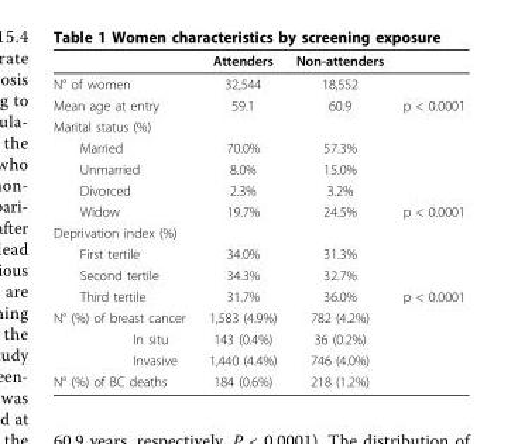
<table><thead><tr><td></td><td>Attenders</td><td>Non-attenders</td><td></td></tr></thead><tbody><tr><td>N° of women</td><td>32,544</td><td>18,552</td><td></td></tr><tr><td>Mean age at entry</td><td>59.1</td><td>60.9</td><td>p &lt; 0.0001</td></tr><tr><td colspan="4">Marital status (%)</td></tr><tr><td>Married</td><td>70.0%</td><td>57.3%</td><td></td></tr><tr><td>Unmarried</td><td>8.0%</td><td>15.0%</td><td></td></tr><tr><td>Divorced</td><td>2.3%</td><td>3.2%</td><td></td></tr><tr><td>Widow</td><td>19.7%</td><td>24.5%</td><td>p &lt; 0.0001</td></tr><tr><td colspan="4">Deprivation index (%)</td></tr><tr><td>First tertile</td><td>34.0%</td><td>31.3%</td><td></td></tr><tr><td>Second tertile</td><td>34.3%</td><td>32.7%</td><td></td></tr><tr><td>Third tertile</td><td>31.7%</td><td>36.0%</td><td>p &lt; 0.0001</td></tr><tr><td>N° (%) of breast cancer</td><td>1,583 (4.9%)</td><td>782 (4.2%)</td><td></td></tr><tr><td>In situ</td><td>143 (0.4%)</td><td>36 (0.2%)</td><td></td></tr><tr><td>Invasive</td><td>1,440 (4.4%)</td><td>746 (4.0%)</td><td></td></tr><tr><td>N° (%) of BC deaths</td><td>184 (0.6%)</td><td>218 (1.2%)</td><td></td></tr></tbody></table>